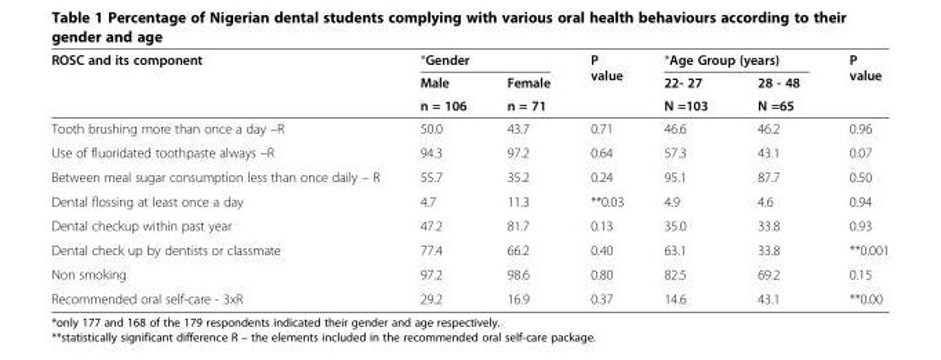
<table><thead><tr><td rowspan="3">ROSC and its component</td><td colspan="2">*Gender</td><td rowspan="3">P value</td><td colspan="2">*Age Group (years)</td><td rowspan="3">P value</td></tr><tr><td rowspan="2">Male n = 106</td><td rowspan="2">Female n = 71</td><td rowspan="2">22- 27 N =103</td><td rowspan="2">28 - 48 N =65</td></tr><tr></tr></thead><tbody><tr><td>Tooth brushing more than once a day –R</td><td>50.0</td><td>43.7</td><td>0.71</td><td>46.6</td><td>46.2</td><td>0.96</td></tr><tr><td>Use of fluoridated toothpaste always –R</td><td>94.3</td><td>97.2</td><td>0.64</td><td>57.3</td><td>43.1</td><td>0.07</td></tr><tr><td>Between meal sugar consumption less than once daily – R</td><td>55.7</td><td>35.2</td><td>0.24</td><td>95.1</td><td>87.7</td><td>0.50</td></tr><tr><td>Dental flossing at least once a day</td><td>4.7</td><td>11.3</td><td>**0.03</td><td>4.9</td><td>4.6</td><td>0.94</td></tr><tr><td>Dental checkup within past year</td><td>47.2</td><td>81.7</td><td>0.13</td><td>35.0</td><td>33.8</td><td>0.93</td></tr><tr><td>Dental check up by dentists or classmate</td><td>77.4</td><td>66.2</td><td>0.40</td><td>63.1</td><td>33.8</td><td>**0.001</td></tr><tr><td>Non smoking</td><td>97.2</td><td>98.6</td><td>0.80</td><td>82.5</td><td>69.2</td><td>0.15</td></tr><tr><td>Recommended oral self-care - 3xR</td><td>29.2</td><td>16.9</td><td>0.37</td><td>14.6</td><td>43.1</td><td>**0.00</td></tr></tbody></table>